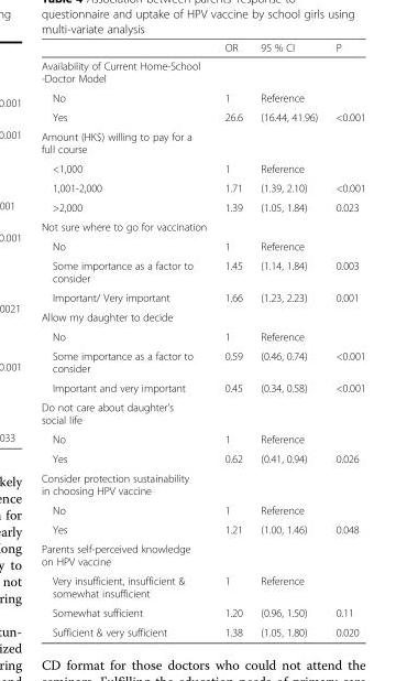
<table><thead><tr><td></td><td>OR</td><td>95 % CI</td><td>P</td></tr></thead><tbody><tr><td colspan="4">Availability of Current Home-School -Doctor Model</td></tr><tr><td>No</td><td>1</td><td>Reference</td><td></td></tr><tr><td>Yes</td><td>26.6</td><td>(16.44, 41.96)</td><td>&lt;0.001</td></tr><tr><td colspan="4">Amount (HK$) willing to pay for a full course</td></tr><tr><td>&lt;1,000</td><td>1</td><td>Reference</td><td></td></tr><tr><td>1,001-2,000</td><td>1.71</td><td>(1.39, 2.10)</td><td>&lt;0.001</td></tr><tr><td>&gt;2,000</td><td>1.39</td><td>(1.05, 1.84)</td><td>0.023</td></tr><tr><td colspan="4">Not sure where to go for vaccination</td></tr><tr><td>No</td><td>1</td><td>Reference</td><td></td></tr><tr><td>Some importance as a factor to consider</td><td>1.45</td><td>(1.14, 1.84)</td><td>0.003</td></tr><tr><td>Important/ Very important</td><td>1.66</td><td>(1.23, 2.23)</td><td>0.001</td></tr><tr><td colspan="4">Allow my daughter to decide</td></tr><tr><td>No</td><td>1</td><td>Reference</td><td></td></tr><tr><td>Some importance as a factor to consider</td><td>0.59</td><td>(0.46, 0.74)</td><td>&lt;0.001</td></tr><tr><td>Important and very important</td><td>0.45</td><td>(0.34, 0.58)</td><td>&lt;0.001</td></tr><tr><td colspan="4">Do not care about daughter’s social life</td></tr><tr><td>No</td><td>1</td><td>Reference</td><td></td></tr><tr><td>Yes</td><td>0.62</td><td>(0.41, 0.94)</td><td>0.026</td></tr><tr><td colspan="4">Consider protection sustainability in choosing HPV vaccine</td></tr><tr><td>No</td><td>1</td><td>Reference</td><td></td></tr><tr><td>Yes</td><td>1.21</td><td>(1.00, 1.46)</td><td>0.048</td></tr><tr><td colspan="4">Parents self-perceived knowledge on HPV vaccine</td></tr><tr><td>Very insufficient, insufficient &amp; somewhat insufficient</td><td>1</td><td>Reference</td><td></td></tr><tr><td>Somewhat sufficient</td><td>1.20</td><td>(0.96, 1.50)</td><td>0.11</td></tr><tr><td>Sufficient &amp; very sufficient</td><td>1.38</td><td>(1.05, 1.80)</td><td>0.020</td></tr></tbody></table>